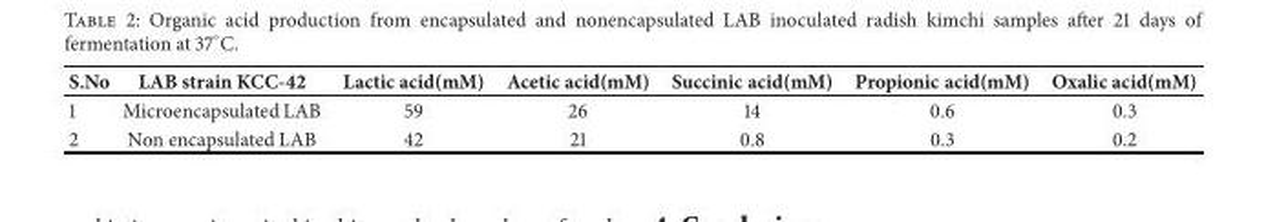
<table><thead><tr><td>S.No</td><td>LAB strain KCC-42</td><td>Lactic acid(mM)</td><td>Acetic acid(mM)</td><td>Succinic acid(mM)</td><td>Propionic acid(mM)</td><td>Oxalic acid(mM)</td></tr></thead><tbody><tr><td>1</td><td>Microencapsulated LAB</td><td>59</td><td>26</td><td>14</td><td>0.6</td><td>0.3</td></tr><tr><td>2</td><td>Non encapsulated LAB</td><td>42</td><td>21</td><td>0.8</td><td>0.3</td><td>0.2</td></tr></tbody></table>